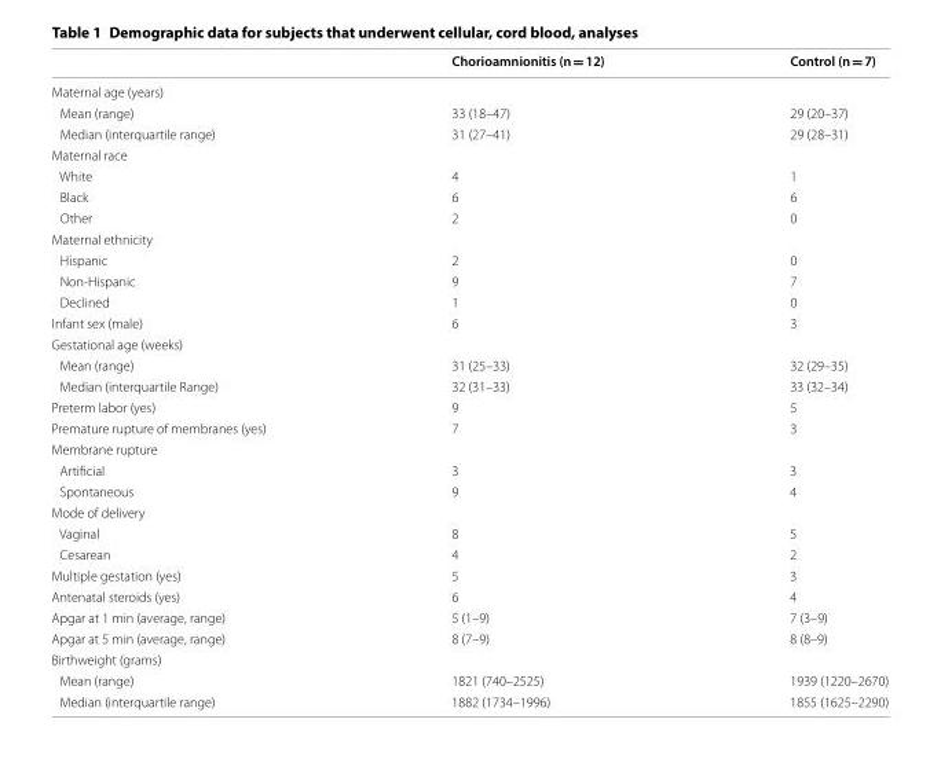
<table><thead><tr><td></td><td>Chorioamnionitis (n = 12)</td><td>Control (n = 7)</td></tr></thead><tbody><tr><td colspan="3">Maternal age (years)</td></tr><tr><td>Mean (range)</td><td>33 (18–47)</td><td>29 (20–37)</td></tr><tr><td>Median (interquartile range)</td><td>31 (27–41)</td><td>29 (28–31)</td></tr><tr><td colspan="3">Maternal race</td></tr><tr><td>White</td><td>4</td><td>1</td></tr><tr><td>Black</td><td>6</td><td>6</td></tr><tr><td>Other</td><td>2</td><td>0</td></tr><tr><td colspan="3">Maternal ethnicity</td></tr><tr><td>Hispanic</td><td>2</td><td>0</td></tr><tr><td>Non‑Hispanic</td><td>9</td><td>7</td></tr><tr><td>Declined</td><td>1</td><td>0</td></tr><tr><td>Infant sex (male)</td><td>6</td><td>3</td></tr><tr><td colspan="3">Gestational age (weeks)</td></tr><tr><td>Mean (range)</td><td>31 (25–33)</td><td>32 (29–35)</td></tr><tr><td>Median (interquartile Range)</td><td>32 (31–33)</td><td>33 (32–34)</td></tr><tr><td>Preterm labor (yes)</td><td>9</td><td>5</td></tr><tr><td>Premature rupture of membranes (yes)</td><td>7</td><td>3</td></tr><tr><td colspan="3">Membrane rupture</td></tr><tr><td>Artificial</td><td>3</td><td>3</td></tr><tr><td>Spontaneous</td><td>9</td><td>4</td></tr><tr><td colspan="3">Mode of delivery</td></tr><tr><td>Vaginal</td><td>8</td><td>5</td></tr><tr><td>Cesarean</td><td>4</td><td>2</td></tr><tr><td>Multiple gestation (yes)</td><td>5</td><td>3</td></tr><tr><td>Antenatal steroids (yes)</td><td>6</td><td>4</td></tr><tr><td>Apgar at 1 min (average, range)</td><td>5 (1–9)</td><td>7 (3–9)</td></tr><tr><td>Apgar at 5 min (average, range)</td><td>8 (7–9)</td><td>8 (8–9)</td></tr><tr><td colspan="3">Birthweight (grams)</td></tr><tr><td>Mean (range)</td><td>1821 (740–2525)</td><td>1939 (1220–2670)</td></tr><tr><td>Median (interquartile range)</td><td>1882 (1734–1996)</td><td>1855 (1625–2290)</td></tr></tbody></table>